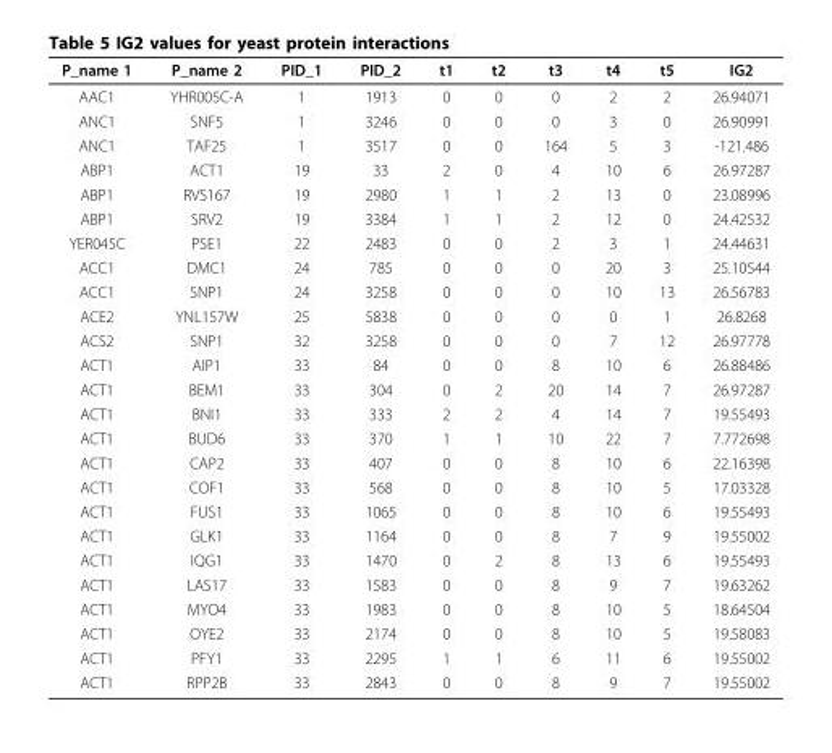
<table><thead><tr><td>P_name 1</td><td>P_name 2</td><td>PID_1</td><td>PID_2</td><td>t1</td><td>t2</td><td>t3</td><td>t4</td><td>t5</td><td>IG2</td></tr></thead><tbody><tr><td>AAC1</td><td>YHR005C-A</td><td>1</td><td>1913</td><td>0</td><td>0</td><td>0</td><td>2</td><td>2</td><td>26.94071</td></tr><tr><td>ANC1</td><td>SNF5</td><td>1</td><td>3246</td><td>0</td><td>0</td><td>0</td><td>3</td><td>0</td><td>26.90991</td></tr><tr><td>ANC1</td><td>TAF25</td><td>1</td><td>3517</td><td>0</td><td>0</td><td>164</td><td>5</td><td>3</td><td>-121.486</td></tr><tr><td>ABP1</td><td>ACT1</td><td>19</td><td>33</td><td>2</td><td>0</td><td>4</td><td>10</td><td>6</td><td>26.97287</td></tr><tr><td>ABP1</td><td>RVS167</td><td>19</td><td>2980</td><td>1</td><td>1</td><td>2</td><td>13</td><td>0</td><td>23.08996</td></tr><tr><td>ABP1</td><td>SRV2</td><td>19</td><td>3384</td><td>1</td><td>1</td><td>2</td><td>12</td><td>0</td><td>24.42532</td></tr><tr><td>YER045C</td><td>PSE1</td><td>22</td><td>2483</td><td>0</td><td>0</td><td>2</td><td>3</td><td>1</td><td>24.44631</td></tr><tr><td>ACC1</td><td>DMC1</td><td>24</td><td>785</td><td>0</td><td>0</td><td>0</td><td>20</td><td>3</td><td>25.10544</td></tr><tr><td>ACC1</td><td>SNP1</td><td>24</td><td>3258</td><td>0</td><td>0</td><td>0</td><td>10</td><td>13</td><td>26.56783</td></tr><tr><td>ACE2</td><td>YNL157W</td><td>25</td><td>5838</td><td>0</td><td>0</td><td>0</td><td>0</td><td>1</td><td>26.8268</td></tr><tr><td>ACS2</td><td>SNP1</td><td>32</td><td>3258</td><td>0</td><td>0</td><td>0</td><td>7</td><td>12</td><td>26.97778</td></tr><tr><td>ACT1</td><td>AIP1</td><td>33</td><td>84</td><td>0</td><td>0</td><td>8</td><td>10</td><td>6</td><td>26.88486</td></tr><tr><td>ACT1</td><td>BEM1</td><td>33</td><td>304</td><td>0</td><td>2</td><td>20</td><td>14</td><td>7</td><td>26.97287</td></tr><tr><td>ACT1</td><td>BNI1</td><td>33</td><td>333</td><td>2</td><td>2</td><td>4</td><td>14</td><td>7</td><td>19.55493</td></tr><tr><td>ACT1</td><td>BUD6</td><td>33</td><td>370</td><td>1</td><td>1</td><td>10</td><td>22</td><td>7</td><td>7.772698</td></tr><tr><td>ACT1</td><td>CAP2</td><td>33</td><td>407</td><td>0</td><td>0</td><td>8</td><td>10</td><td>6</td><td>22.16398</td></tr><tr><td>ACT1</td><td>COF1</td><td>33</td><td>568</td><td>0</td><td>0</td><td>8</td><td>10</td><td>5</td><td>17.03328</td></tr><tr><td>ACT1</td><td>FUS1</td><td>33</td><td>1065</td><td>0</td><td>0</td><td>8</td><td>10</td><td>6</td><td>19.55493</td></tr><tr><td>ACT1</td><td>GLK1</td><td>33</td><td>1164</td><td>0</td><td>0</td><td>8</td><td>7</td><td>9</td><td>19.55002</td></tr><tr><td>ACT1</td><td>IQG1</td><td>33</td><td>1470</td><td>0</td><td>2</td><td>8</td><td>13</td><td>6</td><td>19.55493</td></tr><tr><td>ACT1</td><td>LAS17</td><td>33</td><td>1583</td><td>0</td><td>0</td><td>8</td><td>9</td><td>7</td><td>19.63262</td></tr><tr><td>ACT1</td><td>MYO4</td><td>33</td><td>1983</td><td>0</td><td>0</td><td>8</td><td>10</td><td>5</td><td>18.64504</td></tr><tr><td>ACT1</td><td>OYE2</td><td>33</td><td>2174</td><td>0</td><td>0</td><td>8</td><td>10</td><td>5</td><td>19.58083</td></tr><tr><td>ACT1</td><td>PFY1</td><td>33</td><td>2295</td><td>1</td><td>1</td><td>6</td><td>11</td><td>6</td><td>19.55002</td></tr><tr><td>ACT1</td><td>RPP2B</td><td>33</td><td>2843</td><td>0</td><td>0</td><td>8</td><td>9</td><td>7</td><td>19.55002</td></tr></tbody></table>